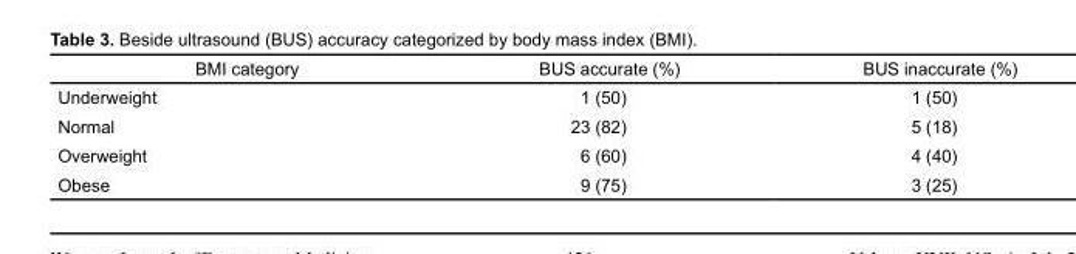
<table><thead><tr><td>BMI category</td><td>BUS accurate (%)</td><td>BUS inaccurate (%)</td></tr></thead><tbody><tr><td>Underweight</td><td>1 (50)</td><td>1 (50)</td></tr><tr><td>Normal</td><td>23 (82)</td><td>5 (18)</td></tr><tr><td>Overweight</td><td>6 (60)</td><td>4 (40)</td></tr><tr><td>Obese</td><td>9 (75)</td><td>3 (25)</td></tr></tbody></table>